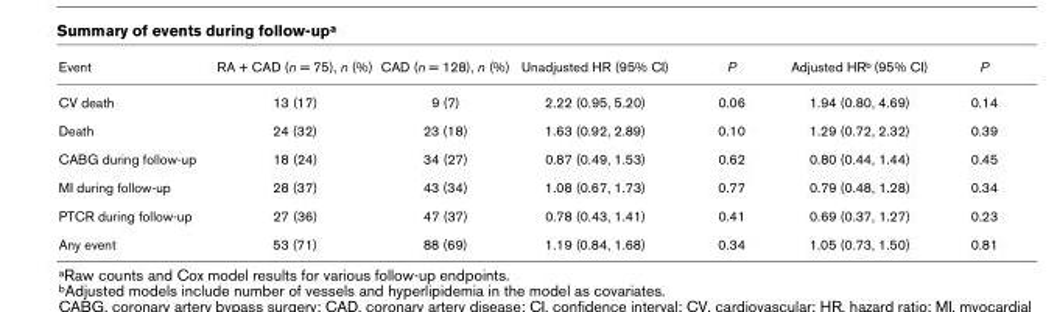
<table><thead><tr><td>Event</td><td>RA + CAD (n = 75), n (%)</td><td>CAD (n = 128), n (%)</td><td>Unadjusted HR (95% CI)</td><td>P</td><td>Adjusted HRb (95% CI)</td><td>P</td></tr></thead><tbody><tr><td>CV death</td><td>13 (17)</td><td>9 (7)</td><td>2.22 (0.95, 5.20)</td><td>0.06</td><td>1.94 (0.80, 4.69)</td><td>0.14</td></tr><tr><td>Death</td><td>24 (32)</td><td>23 (18)</td><td>1.63 (0.92, 2.89)</td><td>0.10</td><td>1.29 (0.72, 2.32)</td><td>0.39</td></tr><tr><td>CABG during follow-up</td><td>18 (24)</td><td>34 (27)</td><td>0.87 (0.49, 1.53)</td><td>0.62</td><td>0.80 (0.44, 1.44)</td><td>0.45</td></tr><tr><td>MI during follow-up</td><td>28 (37)</td><td>43 (34)</td><td>1.08 (0.67, 1.73)</td><td>0.77</td><td>0.79 (0.48, 1.28)</td><td>0.34</td></tr><tr><td>PTCR during follow-up</td><td>27 (36)</td><td>47 (37)</td><td>0.78 (0.43, 1.41)</td><td>0.41</td><td>0.69 (0.37, 1.27)</td><td>0.23</td></tr><tr><td>Any event</td><td>53 (71)</td><td>88 (69)</td><td>1.19 (0.84, 1.68)</td><td>0.34</td><td>1.05 (0.73, 1.50)</td><td>0.81</td></tr></tbody></table>